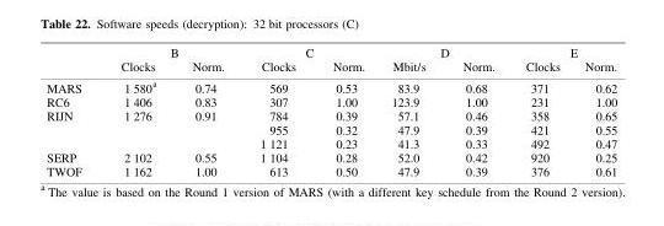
<table><thead><tr><td rowspan="2"></td><td colspan="2">B</td><td colspan="2">C</td><td colspan="2">D</td><td colspan="2">E</td></tr><tr><td>Clocks</td><td>Norm.</td><td>Clocks</td><td>Norm.</td><td>Mbit/s</td><td>Norm.</td><td>Clocks</td><td>Norm.</td></tr></thead><tbody><tr><td>MARS</td><td>1 580<sup>a</sup></td><td>0.74</td><td>569</td><td>0.53</td><td>83.9</td><td>0.68</td><td>371</td><td>0.62</td></tr><tr><td>RC6</td><td>1 406</td><td>0.83</td><td>307</td><td>1.00</td><td>123.9</td><td>1.00</td><td>231</td><td>1.00</td></tr><tr><td rowspan="3">RIJN</td><td>1 276</td><td>0.91</td><td>784</td><td>0.39</td><td>57.1</td><td>0.46</td><td>358</td><td>0.65</td></tr><tr><td></td><td></td><td>955</td><td>0.32</td><td>47.9</td><td>0.39</td><td>421</td><td>0.55</td></tr><tr><td></td><td></td><td>1 121</td><td>0.23</td><td>41.3</td><td>0.33</td><td>492</td><td>0.47</td></tr><tr><td>SERP</td><td>2 102</td><td>0.55</td><td>1 104</td><td>0.28</td><td>52.0</td><td>0.42</td><td>920</td><td>0.25</td></tr><tr><td>TWOF</td><td>1 162</td><td>1.00</td><td>613</td><td>0.50</td><td>47.9</td><td>0.39</td><td>376</td><td>0.61</td></tr></tbody></table>